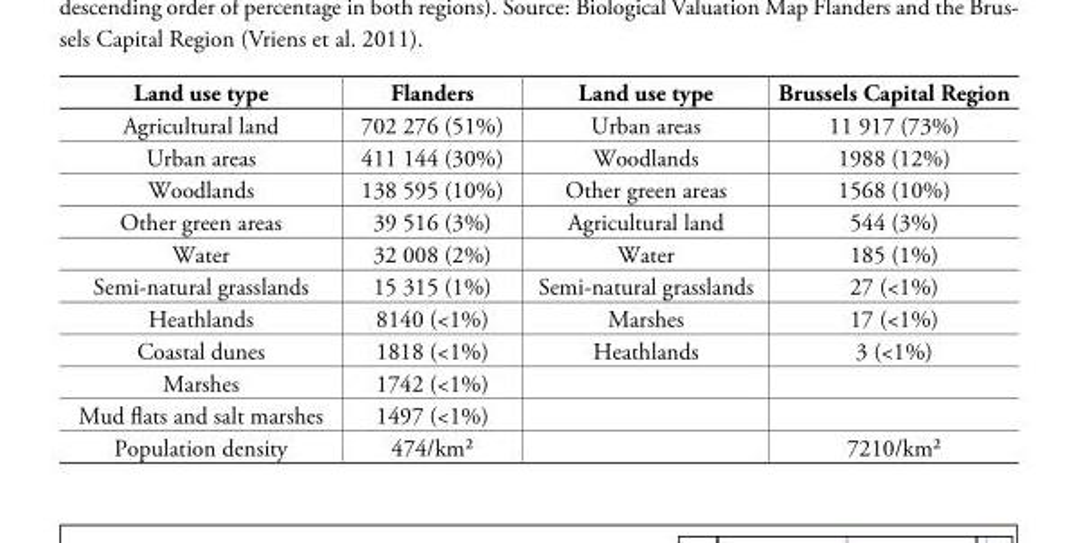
<table><thead><tr><td>Land use type</td><td>Flanders</td><td>Land use type</td><td>Brussels Capital Region</td></tr></thead><tbody><tr><td>Agricultural land</td><td>702 276 (51%)</td><td>Urban areas</td><td>11 917 (73%)</td></tr><tr><td>Urban areas</td><td>411 144 (30%)</td><td>Woodlands</td><td>1988 (12%)</td></tr><tr><td>Woodlands</td><td>138 595 (10%)</td><td>Other green areas</td><td>1568 (10%)</td></tr><tr><td>Other green areas</td><td>39 516 (3%)</td><td>Agricultural land</td><td>544 (3%)</td></tr><tr><td>Water</td><td>32 008 (2%)</td><td>Water</td><td>185 (1%)</td></tr><tr><td>Semi-natural grasslands</td><td>15 315 (1%)</td><td>Semi-natural grasslands</td><td>27 (&lt;1%)</td></tr><tr><td>Heathlands</td><td>8140 (&lt;1%)</td><td>Marshes</td><td>17 (&lt;1%)</td></tr><tr><td>Coastal dunes</td><td>1818 (&lt;1%)</td><td>Heathlands</td><td>3 (&lt;1%)</td></tr><tr><td>Marshes</td><td>1742 (&lt;1%)</td><td></td><td></td></tr><tr><td>Mud flats and salt marshes</td><td>1497 (&lt;1%)</td><td></td><td></td></tr><tr><td>Population density</td><td>474/km²</td><td></td><td>7210/km²</td></tr></tbody></table>